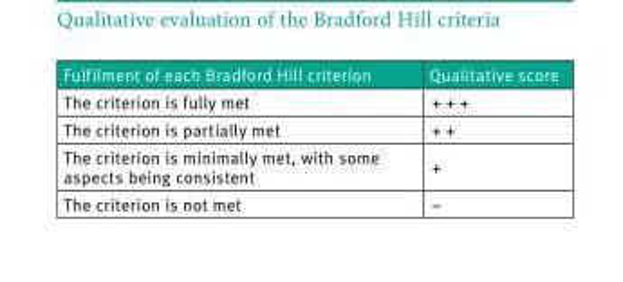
<table><thead><tr><td>Fulfilment of each Bradford Hill criterion</td><td>Qualitative score</td></tr></thead><tbody><tr><td>The criterion is fully met</td><td>+ + +</td></tr><tr><td>The criterion is partially met</td><td>+ +</td></tr><tr><td>The criterion is minimally met, with some aspects being consistent</td><td>+</td></tr><tr><td>The criterion is not met</td><td>−</td></tr></tbody></table>